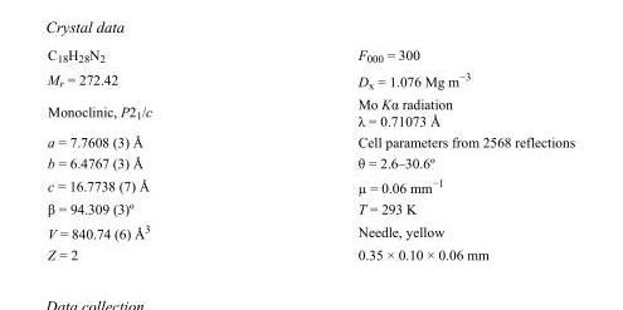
<table><tbody><tr><td>C<sub>18</sub>H<sub>28</sub>N<sub>2</sub></td><td>F000 = 300</td></tr><tr><td>M<sub>r</sub> = 272.42</td><td>D<sub>x</sub> = 1.076 Mg m<sup>−3</sup></td></tr><tr><td>Monoclinic, P2<sub>1</sub>/c</td><td>Mo Kα radiation λ = 0.71073 Å</td></tr><tr><td>a = 7.7608 (3) Å</td><td>Cell parameters from 2568 reflections</td></tr><tr><td>b = 6.4767 (3) Å</td><td>θ = 2.6–30.6º</td></tr><tr><td>c = 16.7738 (7) Å</td><td>µ = 0.06 mm<sup>−1</sup></td></tr><tr><td>β = 94.309 (3)º</td><td>T = 293 K</td></tr><tr><td>V = 840.74 (6) Å<sup>3</sup></td><td>Needle, yellow</td></tr><tr><td>Z = 2</td><td>0.35 × 0.10 × 0.06 mm</td></tr></tbody></table>